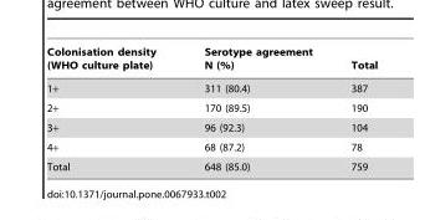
<table><thead><tr><td>Colonisation density (WHO culture plate)</td><td>Serotype agreement N (%)</td><td>Total</td></tr></thead><tbody><tr><td>1+</td><td>311 (80.4)</td><td>387</td></tr><tr><td>2+</td><td>170 (89.5)</td><td>190</td></tr><tr><td>3+</td><td>96 (92.3)</td><td>104</td></tr><tr><td>4+</td><td>68 (87.2)</td><td>78</td></tr><tr><td>Total</td><td>648 (85.0)</td><td>759</td></tr></tbody></table>